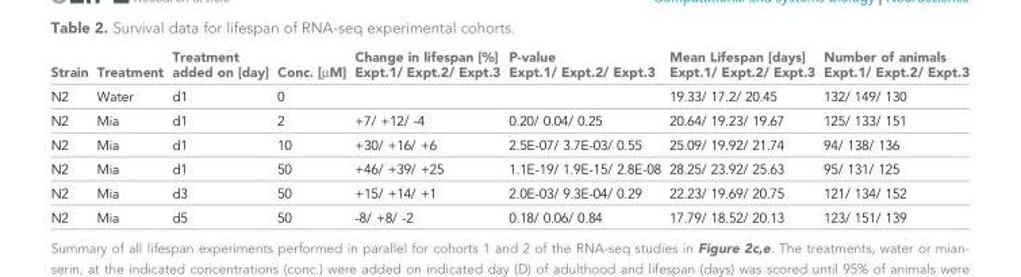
<table><thead><tr><td>Strain</td><td>Treatment</td><td>Treatment added on [day]</td><td>Conc. [µM]</td><td>Change in lifespan [%] Expt.1/ Expt.2/ Expt.3</td><td>P-value Expt.1/ Expt.2/ Expt.3</td><td>Mean Lifespan [days] Expt.1/ Expt.2/ Expt.3</td><td>Number of animals Expt.1/ Expt.2/ Expt.3</td></tr></thead><tbody><tr><td>N2</td><td>Water</td><td>d1</td><td>0</td><td></td><td></td><td>19.33/ 17.2/ 20.45</td><td>132/ 149/ 130</td></tr><tr><td>N2</td><td>Mia</td><td>d1</td><td>2</td><td>+7/ +12/ -4</td><td>0.20/ 0.04/ 0.25</td><td>20.64/ 19.23/ 19.67</td><td>125/ 133/ 151</td></tr><tr><td>N2</td><td>Mia</td><td>d1</td><td>10</td><td>+30/ +16/ +6</td><td>2.5E-07/ 3.7E-03/ 0.55</td><td>25.09/ 19.92/ 21.74</td><td>94/ 138/ 136</td></tr><tr><td>N2</td><td>Mia</td><td>d1</td><td>50</td><td>+46/ +39/ +25</td><td>1.1E-19/ 1.9E-15/ 2.8E-08</td><td>28.25/ 23.92/ 25.63</td><td>95/ 131/ 125</td></tr><tr><td>N2</td><td>Mia</td><td>d3</td><td>50</td><td>+15/ +14/ +1</td><td>2.0E-03/ 9.3E-04/ 0.29</td><td>22.23/ 19.69/ 20.75</td><td>121/ 134/ 152</td></tr><tr><td>N2</td><td>Mia</td><td>d5</td><td>50</td><td>-8/ +8/ -2</td><td>0.18/ 0.06/ 0.84</td><td>17.79/ 18.52/ 20.13</td><td>123/ 151/ 139</td></tr></tbody></table>